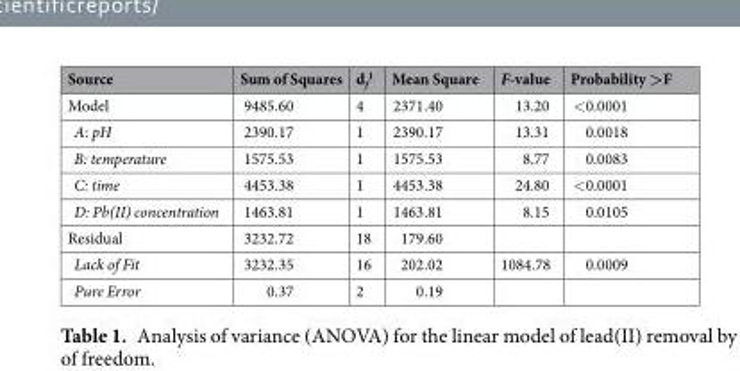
<table><thead><tr><td>Source</td><td>Sum of Squares</td><td>d<sub>f</sub> <sup>1</sup></td><td>Mean Square</td><td>F-value</td><td>Probability &gt;F</td></tr></thead><tbody><tr><td>Model</td><td>9485.60</td><td>4</td><td>2371.40</td><td>13.20</td><td>&lt;0.0001</td></tr><tr><td>A: pH</td><td>2390.17</td><td>1</td><td>2390.17</td><td>13.31</td><td>0.0018</td></tr><tr><td>B: temperature</td><td>1575.53</td><td>1</td><td>1575.53</td><td>8.77</td><td>0.0083</td></tr><tr><td>C: time</td><td>4453.38</td><td>1</td><td>4453.38</td><td>24.80</td><td>&lt;0.0001</td></tr><tr><td>D: Pb(II) concentration</td><td>1463.81</td><td>1</td><td>1463.81</td><td>8.15</td><td>0.0105</td></tr><tr><td>Residual</td><td>3232.72</td><td>18</td><td>179.60</td><td></td><td></td></tr><tr><td>Lack of Fit</td><td>3232.35</td><td>16</td><td>202.02</td><td>1084.78</td><td>0.0009</td></tr><tr><td>Pure Error</td><td>0.37</td><td>2</td><td>0.19</td><td></td><td></td></tr></tbody></table>